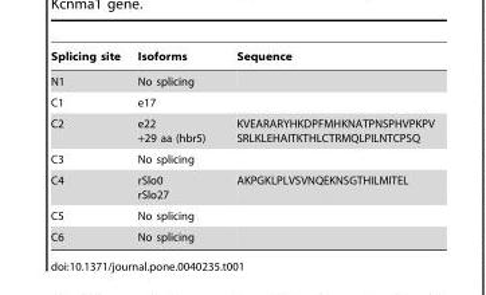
<table><thead><tr><td>Splicing site</td><td>Isoforms</td><td>Sequence</td></tr></thead><tbody><tr><td>N1</td><td>No splicing</td><td></td></tr><tr><td>C1</td><td>e17</td><td></td></tr><tr><td>C2</td><td>e22 +29 aa (hbr5)</td><td>KVEARARYHKDPFMHKNATPNSPHVPKPV SRLKLEHAITKTHLCTRMQLPILNTCPSQ</td></tr><tr><td>C3</td><td>No splicing</td><td></td></tr><tr><td>C4</td><td>rSlo0 rSlo27</td><td>AKPGKLPLVSVNQEKNSGTHILMITEL</td></tr><tr><td>C5</td><td>No splicing</td><td></td></tr><tr><td>C6</td><td>No splicing</td><td></td></tr></tbody></table>